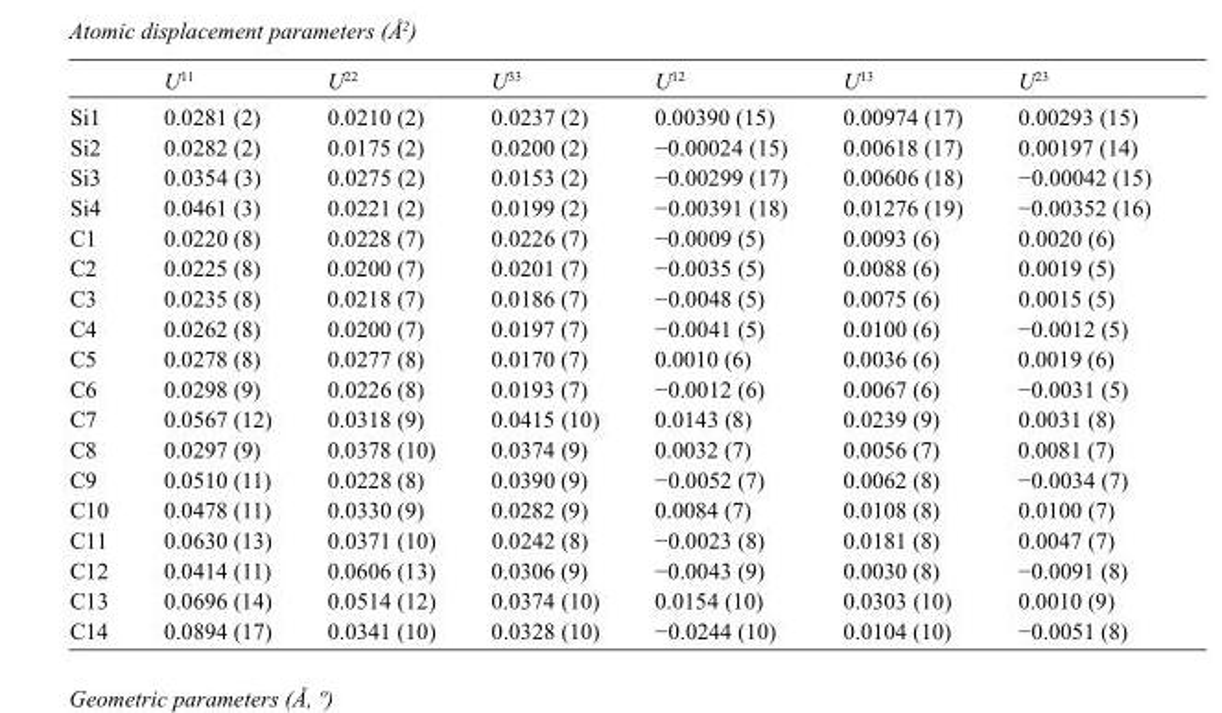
<table><thead><tr><td></td><td>U<sup>11</sup></td><td>U<sup>22</sup></td><td>U<sup>33</sup></td><td>U<sup>12</sup></td><td>U<sup>13</sup></td><td>U<sup>23</sup></td></tr></thead><tbody><tr><td>Si1</td><td>0.0281 (2)</td><td>0.0210 (2)</td><td>0.0237 (2)</td><td>0.00390 (15)</td><td>0.00974 (17)</td><td>0.00293 (15)</td></tr><tr><td>Si2</td><td>0.0282 (2)</td><td>0.0175 (2)</td><td>0.0200 (2)</td><td>−0.00024 (15)</td><td>0.00618 (17)</td><td>0.00197 (14)</td></tr><tr><td>Si3</td><td>0.0354 (3)</td><td>0.0275 (2)</td><td>0.0153 (2)</td><td>−0.00299 (17)</td><td>0.00606 (18)</td><td>−0.00042 (15)</td></tr><tr><td>Si4</td><td>0.0461 (3)</td><td>0.0221 (2)</td><td>0.0199 (2)</td><td>−0.00391 (18)</td><td>0.01276 (19)</td><td>−0.00352 (16)</td></tr><tr><td>C1</td><td>0.0220 (8)</td><td>0.0228 (7)</td><td>0.0226 (7)</td><td>−0.0009 (5)</td><td>0.0093 (6)</td><td>0.0020 (6)</td></tr><tr><td>C2</td><td>0.0225 (8)</td><td>0.0200 (7)</td><td>0.0201 (7)</td><td>−0.0035 (5)</td><td>0.0088 (6)</td><td>0.0019 (5)</td></tr><tr><td>C3</td><td>0.0235 (8)</td><td>0.0218 (7)</td><td>0.0186 (7)</td><td>−0.0048 (5)</td><td>0.0075 (6)</td><td>0.0015 (5)</td></tr><tr><td>C4</td><td>0.0262 (8)</td><td>0.0200 (7)</td><td>0.0197 (7)</td><td>−0.0041 (5)</td><td>0.0100 (6)</td><td>−0.0012 (5)</td></tr><tr><td>C5</td><td>0.0278 (8)</td><td>0.0277 (8)</td><td>0.0170 (7)</td><td>0.0010 (6)</td><td>0.0036 (6)</td><td>0.0019 (6)</td></tr><tr><td>C6</td><td>0.0298 (9)</td><td>0.0226 (8)</td><td>0.0193 (7)</td><td>−0.0012 (6)</td><td>0.0067 (6)</td><td>−0.0031 (5)</td></tr><tr><td>C7</td><td>0.0567 (12)</td><td>0.0318 (9)</td><td>0.0415 (10)</td><td>0.0143 (8)</td><td>0.0239 (9)</td><td>0.0031 (8)</td></tr><tr><td>C8</td><td>0.0297 (9)</td><td>0.0378 (10)</td><td>0.0374 (9)</td><td>0.0032 (7)</td><td>0.0056 (7)</td><td>0.0081 (7)</td></tr><tr><td>C9</td><td>0.0510 (11)</td><td>0.0228 (8)</td><td>0.0390 (9)</td><td>−0.0052 (7)</td><td>0.0062 (8)</td><td>−0.0034 (7)</td></tr><tr><td>C10</td><td>0.0478 (11)</td><td>0.0330 (9)</td><td>0.0282 (9)</td><td>0.0084 (7)</td><td>0.0108 (8)</td><td>0.0100 (7)</td></tr><tr><td>C11</td><td>0.0630 (13)</td><td>0.0371 (10)</td><td>0.0242 (8)</td><td>−0.0023 (8)</td><td>0.0181 (8)</td><td>0.0047 (7)</td></tr><tr><td>C12</td><td>0.0414 (11)</td><td>0.0606 (13)</td><td>0.0306 (9)</td><td>−0.0043 (9)</td><td>0.0030 (8)</td><td>−0.0091 (8)</td></tr><tr><td>C13</td><td>0.0696 (14)</td><td>0.0514 (12)</td><td>0.0374 (10)</td><td>0.0154 (10)</td><td>0.0303 (10)</td><td>0.0010 (9)</td></tr><tr><td>C14</td><td>0.0894 (17)</td><td>0.0341 (10)</td><td>0.0328 (10)</td><td>−0.0244 (10)</td><td>0.0104 (10)</td><td>−0.0051 (8)</td></tr></tbody></table>